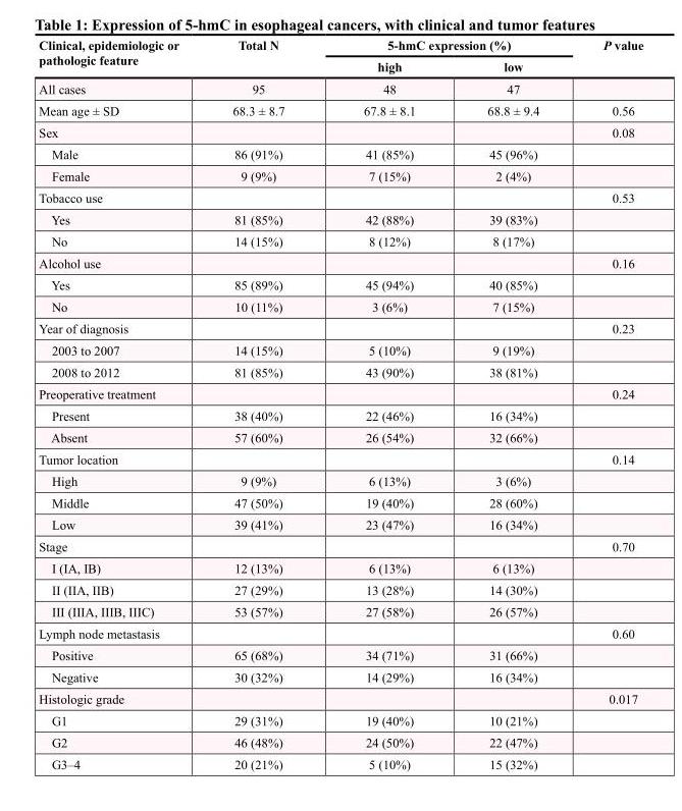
<table><thead><tr><td rowspan="2">Clinical, epidemiologic or pathologic feature</td><td rowspan="2">Total N</td><td colspan="2">5-hmC expression (%)</td><td rowspan="2">P value</td></tr><tr><td>high</td><td>low</td></tr></thead><tbody><tr><td>All cases</td><td>95</td><td>48</td><td>47</td><td></td></tr><tr><td>Mean age ± SD</td><td>68.3 ± 8.7</td><td>67.8 ± 8.1</td><td>68.8 ± 9.4</td><td>0.56</td></tr><tr><td>Sex</td><td></td><td></td><td></td><td>0.08</td></tr><tr><td>Male</td><td>86 (91%)</td><td>41 (85%)</td><td>45 (96%)</td><td></td></tr><tr><td>Female</td><td>9 (9%)</td><td>7 (15%)</td><td>2 (4%)</td><td></td></tr><tr><td>Tobacco use</td><td></td><td></td><td></td><td>0.53</td></tr><tr><td>Yes</td><td>81 (85%)</td><td>42 (88%)</td><td>39 (83%)</td><td></td></tr><tr><td>No</td><td>14 (15%)</td><td>8 (12%)</td><td>8 (17%)</td><td></td></tr><tr><td>Alcohol use</td><td></td><td></td><td></td><td>0.16</td></tr><tr><td>Yes</td><td>85 (89%)</td><td>45 (94%)</td><td>40 (85%)</td><td></td></tr><tr><td>No</td><td>10 (11%)</td><td>3 (6%)</td><td>7 (15%)</td><td></td></tr><tr><td>Year of diagnosis</td><td></td><td></td><td></td><td>0.23</td></tr><tr><td>2003 to 2007</td><td>14 (15%)</td><td>5 (10%)</td><td>9 (19%)</td><td></td></tr><tr><td>2008 to 2012</td><td>81 (85%)</td><td>43 (90%)</td><td>38 (81%)</td><td></td></tr><tr><td>Preoperative treatment</td><td></td><td></td><td></td><td>0.24</td></tr><tr><td>Present</td><td>38 (40%)</td><td>22 (46%)</td><td>16 (34%)</td><td></td></tr><tr><td>Absent</td><td>57 (60%)</td><td>26 (54%)</td><td>32 (66%)</td><td></td></tr><tr><td>Tumor location</td><td></td><td></td><td></td><td>0.14</td></tr><tr><td>High</td><td>9 (9%)</td><td>6 (13%)</td><td>3 (6%)</td><td></td></tr><tr><td>Middle</td><td>47 (50%)</td><td>19 (40%)</td><td>28 (60%)</td><td></td></tr><tr><td>Low</td><td>39 (41%)</td><td>23 (47%)</td><td>16 (34%)</td><td></td></tr><tr><td>Stage</td><td></td><td></td><td></td><td>0.70</td></tr><tr><td>I (IA, IB)</td><td>12 (13%)</td><td>6 (13%)</td><td>6 (13%)</td><td></td></tr><tr><td>II (IIA, IIB)</td><td>27 (29%)</td><td>13 (28%)</td><td>14 (30%)</td><td></td></tr><tr><td>III (IIIA, IIIB, IIIC)</td><td>53 (57%)</td><td>27 (58%)</td><td>26 (57%)</td><td></td></tr><tr><td>Lymph node metastasis</td><td></td><td></td><td></td><td>0.60</td></tr><tr><td>Positive</td><td>65 (68%)</td><td>34 (71%)</td><td>31 (66%)</td><td></td></tr><tr><td>Negative</td><td>30 (32%)</td><td>14 (29%)</td><td>16 (34%)</td><td></td></tr><tr><td>Histologic grade</td><td></td><td></td><td></td><td>0.017</td></tr><tr><td>G1</td><td>29 (31%)</td><td>19 (40%)</td><td>10 (21%)</td><td></td></tr><tr><td>G2</td><td>46 (48%)</td><td>24 (50%)</td><td>22 (47%)</td><td></td></tr><tr><td>G3–4</td><td>20 (21%)</td><td>5 (10%)</td><td>15 (32%)</td><td></td></tr></tbody></table>